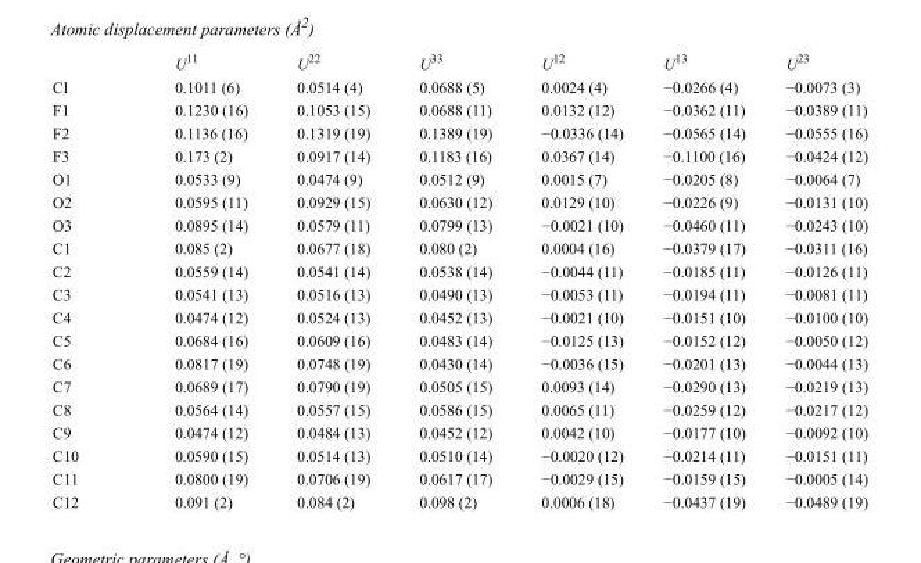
<table><thead><tr><td></td><td>U<sup>11</sup></td><td>U<sup>22</sup></td><td>U<sup>33</sup></td><td>U<sup>12</sup></td><td>U<sup>13</sup></td><td>U<sup>23</sup></td></tr></thead><tbody><tr><td>Cl</td><td>0.1011 (6)</td><td>0.0514 (4)</td><td>0.0688 (5)</td><td>0.0024 (4)</td><td>−0.0266 (4)</td><td>−0.0073 (3)</td></tr><tr><td>F1</td><td>0.1230 (16)</td><td>0.1053 (15)</td><td>0.0688 (11)</td><td>0.0132 (12)</td><td>−0.0362 (11)</td><td>−0.0389 (11)</td></tr><tr><td>F2</td><td>0.1136 (16)</td><td>0.1319 (19)</td><td>0.1389 (19)</td><td>−0.0336 (14)</td><td>−0.0565 (14)</td><td>−0.0555 (16)</td></tr><tr><td>F3</td><td>0.173 (2)</td><td>0.0917 (14)</td><td>0.1183 (16)</td><td>0.0367 (14)</td><td>−0.1100 (16)</td><td>−0.0424 (12)</td></tr><tr><td>O1</td><td>0.0533 (9)</td><td>0.0474 (9)</td><td>0.0512 (9)</td><td>0.0015 (7)</td><td>−0.0205 (8)</td><td>−0.0064 (7)</td></tr><tr><td>O2</td><td>0.0595 (11)</td><td>0.0929 (15)</td><td>0.0630 (12)</td><td>0.0129 (10)</td><td>−0.0226 (9)</td><td>−0.0131 (10)</td></tr><tr><td>O3</td><td>0.0895 (14)</td><td>0.0579 (11)</td><td>0.0799 (13)</td><td>−0.0021 (10)</td><td>−0.0460 (11)</td><td>−0.0243 (10)</td></tr><tr><td>C1</td><td>0.085 (2)</td><td>0.0677 (18)</td><td>0.080 (2)</td><td>0.0004 (16)</td><td>−0.0379 (17)</td><td>−0.0311 (16)</td></tr><tr><td>C2</td><td>0.0559 (14)</td><td>0.0541 (14)</td><td>0.0538 (14)</td><td>−0.0044 (11)</td><td>−0.0185 (11)</td><td>−0.0126 (11)</td></tr><tr><td>C3</td><td>0.0541 (13)</td><td>0.0516 (13)</td><td>0.0490 (13)</td><td>−0.0053 (11)</td><td>−0.0194 (11)</td><td>−0.0081 (11)</td></tr><tr><td>C4</td><td>0.0474 (12)</td><td>0.0524 (13)</td><td>0.0452 (13)</td><td>−0.0021 (10)</td><td>−0.0151 (10)</td><td>−0.0100 (10)</td></tr><tr><td>C5</td><td>0.0684 (16)</td><td>0.0609 (16)</td><td>0.0483 (14)</td><td>−0.0125 (13)</td><td>−0.0152 (12)</td><td>−0.0050 (12)</td></tr><tr><td>C6</td><td>0.0817 (19)</td><td>0.0748 (19)</td><td>0.0430 (14)</td><td>−0.0036 (15)</td><td>−0.0201 (13)</td><td>−0.0044 (13)</td></tr><tr><td>C7</td><td>0.0689 (17)</td><td>0.0790 (19)</td><td>0.0505 (15)</td><td>0.0093 (14)</td><td>−0.0290 (13)</td><td>−0.0219 (13)</td></tr><tr><td>C8</td><td>0.0564 (14)</td><td>0.0557 (15)</td><td>0.0586 (15)</td><td>0.0065 (11)</td><td>−0.0259 (12)</td><td>−0.0217 (12)</td></tr><tr><td>C9</td><td>0.0474 (12)</td><td>0.0484 (13)</td><td>0.0452 (12)</td><td>0.0042 (10)</td><td>−0.0177 (10)</td><td>−0.0092 (10)</td></tr><tr><td>C10</td><td>0.0590 (15)</td><td>0.0514 (13)</td><td>0.0510 (14)</td><td>−0.0020 (12)</td><td>−0.0214 (11)</td><td>−0.0151 (11)</td></tr><tr><td>C11</td><td>0.0800 (19)</td><td>0.0706 (19)</td><td>0.0617 (17)</td><td>−0.0029 (15)</td><td>−0.0159 (15)</td><td>−0.0005 (14)</td></tr><tr><td>C12</td><td>0.091 (2)</td><td>0.084 (2)</td><td>0.098 (2)</td><td>0.0006 (18)</td><td>−0.0437 (19)</td><td>−0.0489 (19)</td></tr></tbody></table>